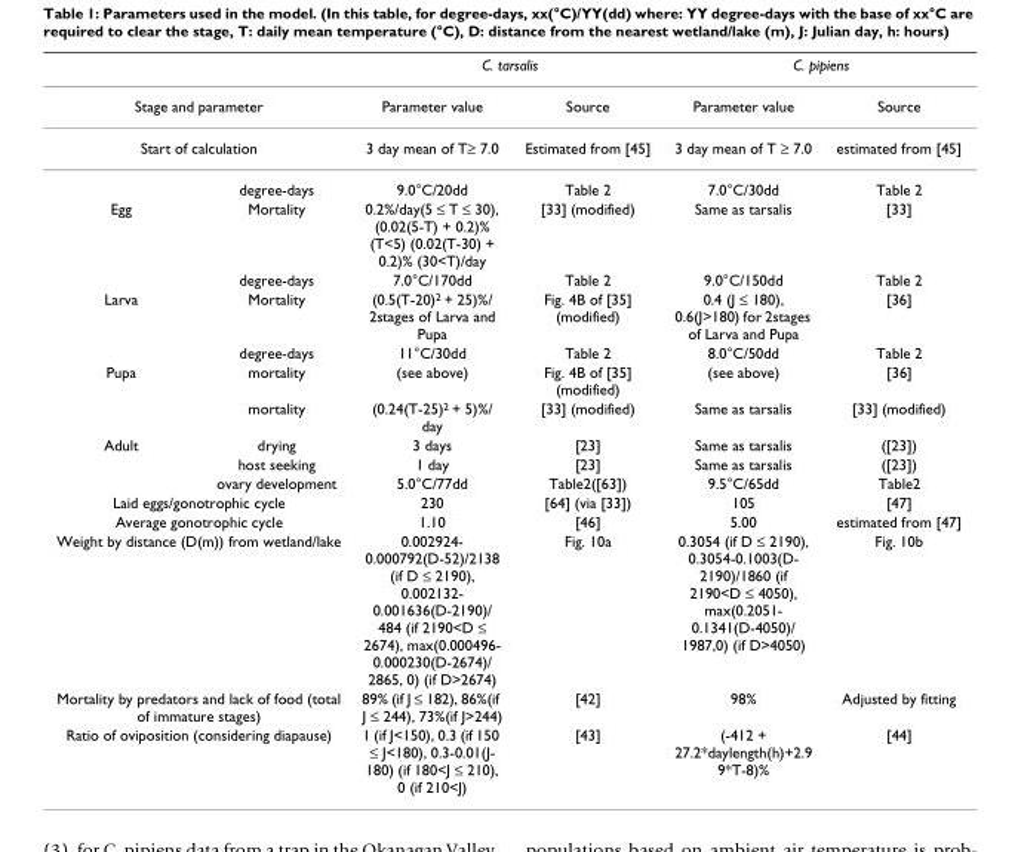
<table><thead><tr><td></td><td></td><td colspan="2">C. tarsalis</td><td colspan="2">C. pipiens</td></tr><tr><td colspan="2">Stage and parameter</td><td>Parameter value</td><td>Source</td><td>Parameter value</td><td>Source</td></tr></thead><tbody><tr><td colspan="2">Start of calculation</td><td>3 day mean of T≥ 7.0</td><td>Estimated from [45]</td><td>3 day mean of T ≥ 7.0</td><td>estimated from [45]</td></tr><tr><td></td><td>degree-days</td><td>9.0°C/20dd</td><td>Table 2</td><td>7.0°C/30dd</td><td>Table 2</td></tr><tr><td rowspan="2">Egg</td><td>Mortality</td><td>0.2%/day(5 ≤ T ≤ 30), (0.02(5-T) + 0.2)% (T&lt;5) (0.02(T-30) + 0.2)% (30&lt;T)/day</td><td>[33] (modified)</td><td>Same as tarsalis</td><td>[33]</td></tr><tr><td>degree-days</td><td>7.0°C/170dd</td><td>Table 2</td><td>9.0°C/150dd</td><td>Table 2</td></tr><tr><td rowspan="2">Larva</td><td>Mortality</td><td>(0.5(T-20)<sup>2</sup> + 25)%/ 2stages of Larva and Pupa</td><td>Fig. 4B of [35] (modified)</td><td>0.4 (J ≤ 180), 0.6(J&gt;180) for 2stages of Larva and Pupa</td><td>[36]</td></tr><tr><td>degree-days</td><td>11°C/30dd</td><td>Table 2</td><td>8.0°C/50dd</td><td>Table 2</td></tr><tr><td rowspan="2">Pupa</td><td>mortality</td><td>(see above)</td><td>Fig. 4B of [35] (modified)</td><td>(see above)</td><td>[36]</td></tr><tr><td>mortality</td><td>(0.24(T-25)<sup>2</sup> + 5)%/ day</td><td>[33] (modified)</td><td>Same as tarsalis</td><td>[33] (modified)</td></tr><tr><td rowspan="3">Adult</td><td>drying</td><td>3 days</td><td>[23]</td><td>Same as tarsalis</td><td>([23])</td></tr><tr><td>host seeking</td><td>1 day</td><td>[23]</td><td>Same as tarsalis</td><td>([23])</td></tr><tr><td>ovary development</td><td>5.0°C/77dd</td><td>Table2([63])</td><td>9.5°C/65dd</td><td>Table2</td></tr><tr><td colspan="2">Laid eggs/gonotrophic cycle</td><td>230</td><td>[64] (via [33])</td><td>105</td><td>[47]</td></tr><tr><td colspan="2">Average gonotrophic cycle</td><td>1.10</td><td>[46]</td><td>5.00</td><td>estimated from [47]</td></tr><tr><td colspan="2">Weight by distance (D(m)) from wetland/lake</td><td>0.002924- 0.000792(D-52)/2138 (if D ≤ 2190), 0.002132- 0.001636(D-2190)/ 484 (if 2190&lt;D ≤ 2674), max(0.000496- 0.000230(D-2674)/ 2865, 0) (if D&gt;2674)</td><td>Fig. 10a</td><td>0.3054 (if D ≤ 2190), 0.3054-0.1003(D- 2190)/1860 (if 2190&lt;D ≤ 4050), max(0.2051- 0.1341(D-4050)/ 1987,0) (if D&gt;4050)</td><td>Fig. 10b</td></tr><tr><td colspan="2">Mortality by predators and lack of food (total of immature stages)</td><td>89% (if J ≤ 182), 86%(if J ≤ 244), 73%(if J&gt;244)</td><td>[42]</td><td>98%</td><td>Adjusted by fitting</td></tr><tr><td colspan="2">Ratio of oviposition (considering diapause)</td><td>1 (if J&lt;150), 0.3 (if 150 ≤ J&lt;180), 0.3-0.01(J- 180) (if 180&lt;J ≤ 210), 0 (if 210&lt;J)</td><td>[43]</td><td>(-412 + 27.2*daylength(h)+2.9 9*T-8)%</td><td>[44]</td></tr></tbody></table>